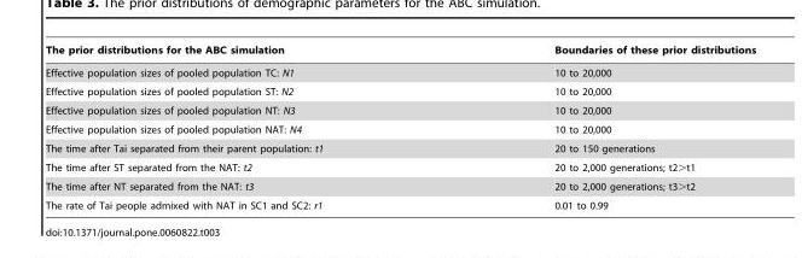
<table><thead><tr><td>The prior distributions for the ABC simulation</td><td>Boundaries of these prior distributions</td></tr></thead><tbody><tr><td>Effective population sizes of pooled population TC: N1</td><td>10 to 20,000</td></tr><tr><td>Effective population sizes of pooled population ST: N2</td><td>10 to 20,000</td></tr><tr><td>Effective population sizes of pooled population NT: N3</td><td>10 to 20,000</td></tr><tr><td>Effective population sizes of pooled population NAT: N4</td><td>10 to 20,000</td></tr><tr><td>The time after Tai separated from their parent population: t1</td><td>20 to 150 generations</td></tr><tr><td>The time after ST separated from the NAT: t2</td><td>20 to 2,000 generations; t2&gt;t1</td></tr><tr><td>The time after NT separated from the NAT: t3</td><td>20 to 2,000 generations; t3&gt;t2</td></tr><tr><td>The rate of Tai people admixed with NAT in SC1 and SC2: r1</td><td>0.01 to 0.99</td></tr></tbody></table>